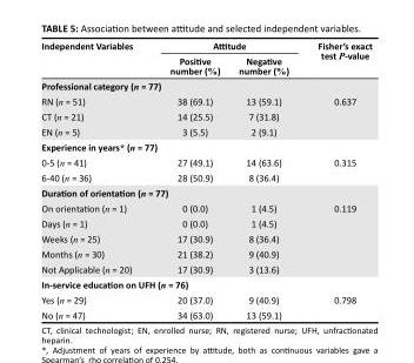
<table><thead><tr><td rowspan="2">Independent Variables</td><td colspan="2">Attitude</td><td rowspan="2">Fisher’s exact test P-value</td></tr><tr><td>Positive number (%)</td><td>Negative number (%)</td></tr></thead><tbody><tr><td colspan="4">Professional category (n = 77)</td></tr><tr><td>RN (n = 51)</td><td>38 (69.1)</td><td>13 (59.1)</td><td>0.637</td></tr><tr><td>CT (n = 21)</td><td>14 (25.5)</td><td>7 (31.8)</td><td></td></tr><tr><td>EN (n = 5)</td><td>3 (5.5)</td><td>2 (9.1)</td><td></td></tr><tr><td colspan="4">Experience in years* (n = 77)</td></tr><tr><td>0-5 (n = 41)</td><td>27 (49.1)</td><td>14 (63.6)</td><td>0.315</td></tr><tr><td>6-40 (n = 36)</td><td>28 (50.9)</td><td>8 (36.4)</td><td></td></tr><tr><td colspan="4">Duration of orientation (n = 77)</td></tr><tr><td>On orientation (n = 1)</td><td>0 (0.0)</td><td>1 (4.5)</td><td>0.119</td></tr><tr><td>Days (n = 1)</td><td>0 (0.0)</td><td>1 (4.5)</td><td></td></tr><tr><td>Weeks (n = 25)</td><td>17 (30.9)</td><td>8 (36.4)</td><td></td></tr><tr><td>Months (n = 30)</td><td>21 (38.2)</td><td>9 (40.9)</td><td></td></tr><tr><td>Not Applicable (n = 20)</td><td>17 (30.9)</td><td>3 (13.6)</td><td></td></tr><tr><td colspan="4">In-service education on UFH (n = 76)</td></tr><tr><td>Yes (n = 29)</td><td>20 (37.0)</td><td>9 (40.9)</td><td>0.798</td></tr><tr><td>No (n = 47)</td><td>34 (63.0)</td><td>13 (59.1)</td><td></td></tr></tbody></table>